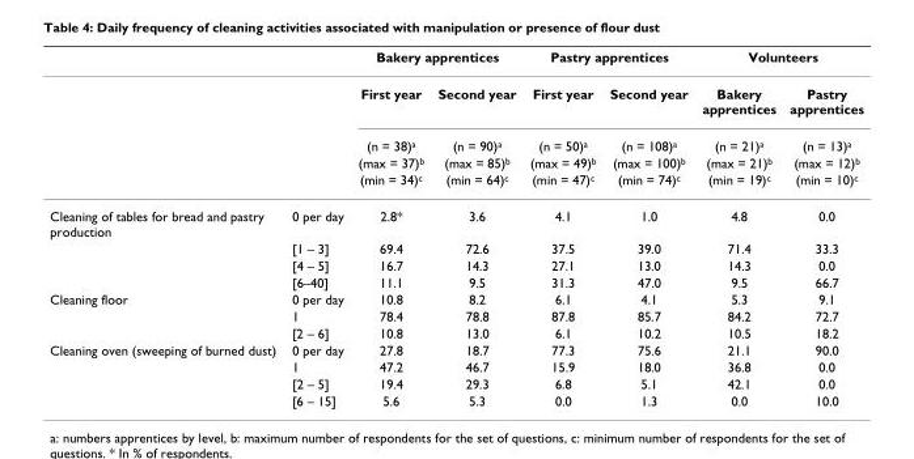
<table><thead><tr><td rowspan="2"></td><td rowspan="2"></td><td colspan="2">Bakery apprentices</td><td colspan="2">Pastry apprentices</td><td colspan="2">Volunteers</td></tr><tr><td>First year</td><td>Second year</td><td>First year</td><td>Second year</td><td>Bakery apprentices</td><td>Pastry apprentices</td></tr></thead><tbody><tr><td></td><td></td><td>(n = 38)<sup>a</sup></td><td>(n = 90)<sup>a</sup></td><td>(n = 50)<sup>a</sup></td><td>(n = 108)<sup>a</sup></td><td>(n = 21)<sup>a</sup></td><td>(n = 13)<sup>a</sup></td></tr><tr><td></td><td></td><td>(max = 37)<sup>b</sup></td><td>(max = 85)<sup>b</sup></td><td>(max = 49)<sup>b</sup></td><td>(max = 100)<sup>b</sup></td><td>(max = 21)<sup>b</sup></td><td>(max = 12)<sup>b</sup></td></tr><tr><td></td><td></td><td>(min = 34)<sup>c</sup></td><td>(min = 64)<sup>c</sup></td><td>(min = 47)<sup>c</sup></td><td>(min = 74)<sup>c</sup></td><td>(min = 19)<sup>c</sup></td><td>(min = 10)<sup>c</sup></td></tr><tr><td rowspan="4">Cleaning of tables for bread and pastry production</td><td>0 per day</td><td>2.8*</td><td>3.6</td><td>4.1</td><td>1.0</td><td>4.8</td><td>0.0</td></tr><tr><td>[1 – 3]</td><td>69.4</td><td>72.6</td><td>37.5</td><td>39.0</td><td>71.4</td><td>33.3</td></tr><tr><td>[4 – 5]</td><td>16.7</td><td>14.3</td><td>27.1</td><td>13.0</td><td>14.3</td><td>0.0</td></tr><tr><td>[6–40]</td><td>11.1</td><td>9.5</td><td>31.3</td><td>47.0</td><td>9.5</td><td>66.7</td></tr><tr><td rowspan="3">Cleaning floor</td><td>0 per day</td><td>10.8</td><td>8.2</td><td>6.1</td><td>4.1</td><td>5.3</td><td>9.1</td></tr><tr><td>1</td><td>78.4</td><td>78.8</td><td>87.8</td><td>85.7</td><td>84.2</td><td>72.7</td></tr><tr><td>[2 – 6]</td><td>10.8</td><td>13.0</td><td>6.1</td><td>10.2</td><td>10.5</td><td>18.2</td></tr><tr><td rowspan="4">Cleaning oven (sweeping of burned dust)</td><td>0 per day</td><td>27.8</td><td>18.7</td><td>77.3</td><td>75.6</td><td>21.1</td><td>90.0</td></tr><tr><td>1</td><td>47.2</td><td>46.7</td><td>15.9</td><td>18.0</td><td>36.8</td><td>0.0</td></tr><tr><td>[2 – 5]</td><td>19.4</td><td>29.3</td><td>6.8</td><td>5.1</td><td>42.1</td><td>0.0</td></tr><tr><td>[6 – 15]</td><td>5.6</td><td>5.3</td><td>0.0</td><td>1.3</td><td>0.0</td><td>10.0</td></tr></tbody></table>